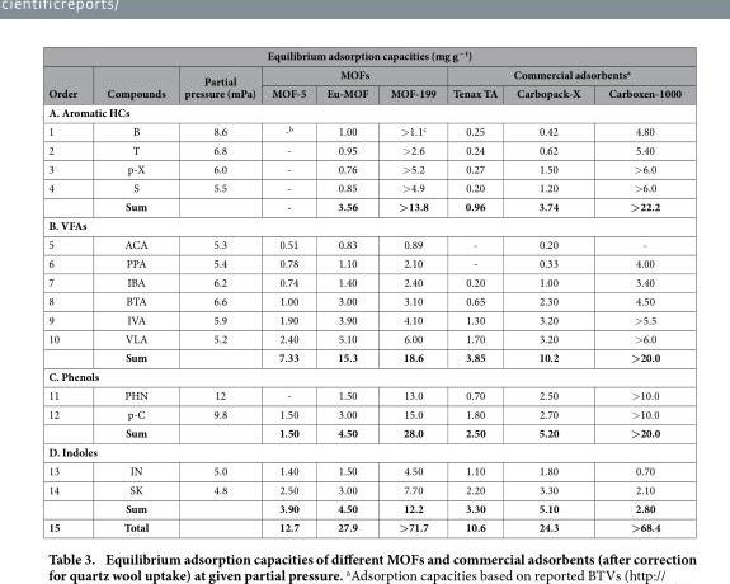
<table><thead><tr><td colspan="9">Equilibrium adsorption capacities (mg g<sup>−1</sup>)</td></tr><tr><td rowspan="2">Order</td><td rowspan="2">Compounds</td><td rowspan="2">Partial pressure (mPa)</td><td colspan="3">MOFs</td><td colspan="3">Commercial adsorbents<sup>a</sup></td></tr><tr><td>MOF-5</td><td>Eu-MOF</td><td>MOF-199</td><td>Tenax TA</td><td>Carbopack-X</td><td>Carboxen-1000</td></tr></thead><tbody><tr><td colspan="9">A. Aromatic HCs</td></tr><tr><td>1</td><td>B</td><td>8.6</td><td>-b</td><td>1.00</td><td>&gt; 1.1<sup>c</sup></td><td>0.25</td><td>0.42</td><td>4.80</td></tr><tr><td>2</td><td>T</td><td>6.8</td><td>-</td><td>0.95</td><td>&gt; 2.6</td><td>0.24</td><td>0.62</td><td>5.40</td></tr><tr><td>3</td><td>p-X</td><td>6.0</td><td>-</td><td>0.76</td><td>&gt; 5.2</td><td>0.27</td><td>1.50</td><td>&gt; 6.0</td></tr><tr><td rowspan="2">4</td><td>S</td><td>5.5</td><td>-</td><td>0.85</td><td>&gt; 4.9</td><td>0.20</td><td>1.20</td><td>&gt; 6.0</td></tr><tr><td>Sum</td><td></td><td>-</td><td>3.56</td><td>&gt;13.8</td><td>0.96</td><td>3.74</td><td>&gt;22.2</td></tr><tr><td colspan="9">B. VFAs</td></tr><tr><td>5</td><td>ACA</td><td>5.3</td><td>0.51</td><td>0.83</td><td>0.89</td><td>-</td><td>0.20</td><td>-</td></tr><tr><td>6</td><td>PPA</td><td>5.4</td><td>0.78</td><td>1.10</td><td>2.10</td><td>-</td><td>0.33</td><td>4.00</td></tr><tr><td>7</td><td>IBA</td><td>6.2</td><td>0.74</td><td>1.40</td><td>2.40</td><td>0.20</td><td>1.00</td><td>3.40</td></tr><tr><td>8</td><td>BTA</td><td>6.6</td><td>1.00</td><td>3.00</td><td>3.10</td><td>0.65</td><td>2.30</td><td>4.50</td></tr><tr><td>9</td><td>IVA</td><td>5.9</td><td>1.90</td><td>3.90</td><td>4.10</td><td>1.30</td><td>3.20</td><td>&gt; 5.5</td></tr><tr><td rowspan="2">10</td><td>VLA</td><td>5.2</td><td>2.40</td><td>5.10</td><td>6.00</td><td>1.70</td><td>3.20</td><td>&gt; 6.0</td></tr><tr><td>Sum</td><td></td><td>7.33</td><td>15.3</td><td>18.6</td><td>3.85</td><td>10.2</td><td>&gt;20.0</td></tr><tr><td colspan="9">C. Phenols</td></tr><tr><td>11</td><td>PHN</td><td>12</td><td>-</td><td>1.50</td><td>13.0</td><td>0.70</td><td>2.50</td><td>&gt; 10.0</td></tr><tr><td rowspan="2">12</td><td>p-C</td><td>9.8</td><td>1.50</td><td>3.00</td><td>15.0</td><td>1.80</td><td>2.70</td><td>&gt; 10.0</td></tr><tr><td>Sum</td><td></td><td>1.50</td><td>4.50</td><td>28.0</td><td>2.50</td><td>5.20</td><td>&gt;20.0</td></tr><tr><td colspan="9">D. Indoles</td></tr><tr><td>13</td><td>IN</td><td>5.0</td><td>1.40</td><td>1.50</td><td>4.50</td><td>1.10</td><td>1.80</td><td>0.70</td></tr><tr><td rowspan="2">14</td><td>SK</td><td>4.8</td><td>2.50</td><td>3.00</td><td>7.70</td><td>2.20</td><td>3.30</td><td>2.10</td></tr><tr><td>Sum</td><td></td><td>3.90</td><td>4.50</td><td>12.2</td><td>3.30</td><td>5.10</td><td>2.80</td></tr><tr><td>15</td><td>Total</td><td></td><td>12.7</td><td>27.9</td><td>&gt;71.7</td><td>10.6</td><td>24.3</td><td>&gt;68.4</td></tr></tbody></table>